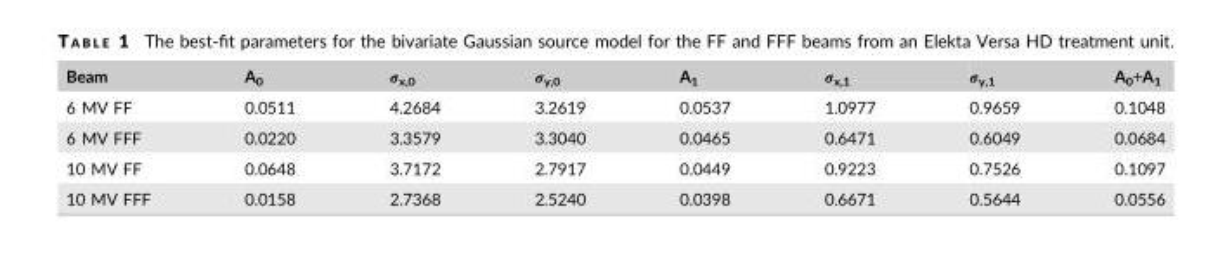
<table><thead><tr><td>Beam</td><td>A<sub>0</sub></td><td>σ<sub>x,0</sub></td><td>σ<sub>y,0</sub></td><td>A<sub>1</sub></td><td>σ<sub>x,1</sub></td><td>σ<sub>y,1</sub></td><td>A<sub>0</sub>+A<sub>1</sub></td></tr></thead><tbody><tr><td>6 MV FF</td><td>0.0511</td><td>4.2684</td><td>3.2619</td><td>0.0537</td><td>1.0977</td><td>0.9659</td><td>0.1048</td></tr><tr><td>6 MV FFF</td><td>0.0220</td><td>3.3579</td><td>3.3040</td><td>0.0465</td><td>0.6471</td><td>0.6049</td><td>0.0684</td></tr><tr><td>10 MV FF</td><td>0.0648</td><td>3.7172</td><td>2.7917</td><td>0.0449</td><td>0.9223</td><td>0.7526</td><td>0.1097</td></tr><tr><td>10 MV FFF</td><td>0.0158</td><td>2.7368</td><td>2.5240</td><td>0.0398</td><td>0.6671</td><td>0.5644</td><td>0.0556</td></tr></tbody></table>